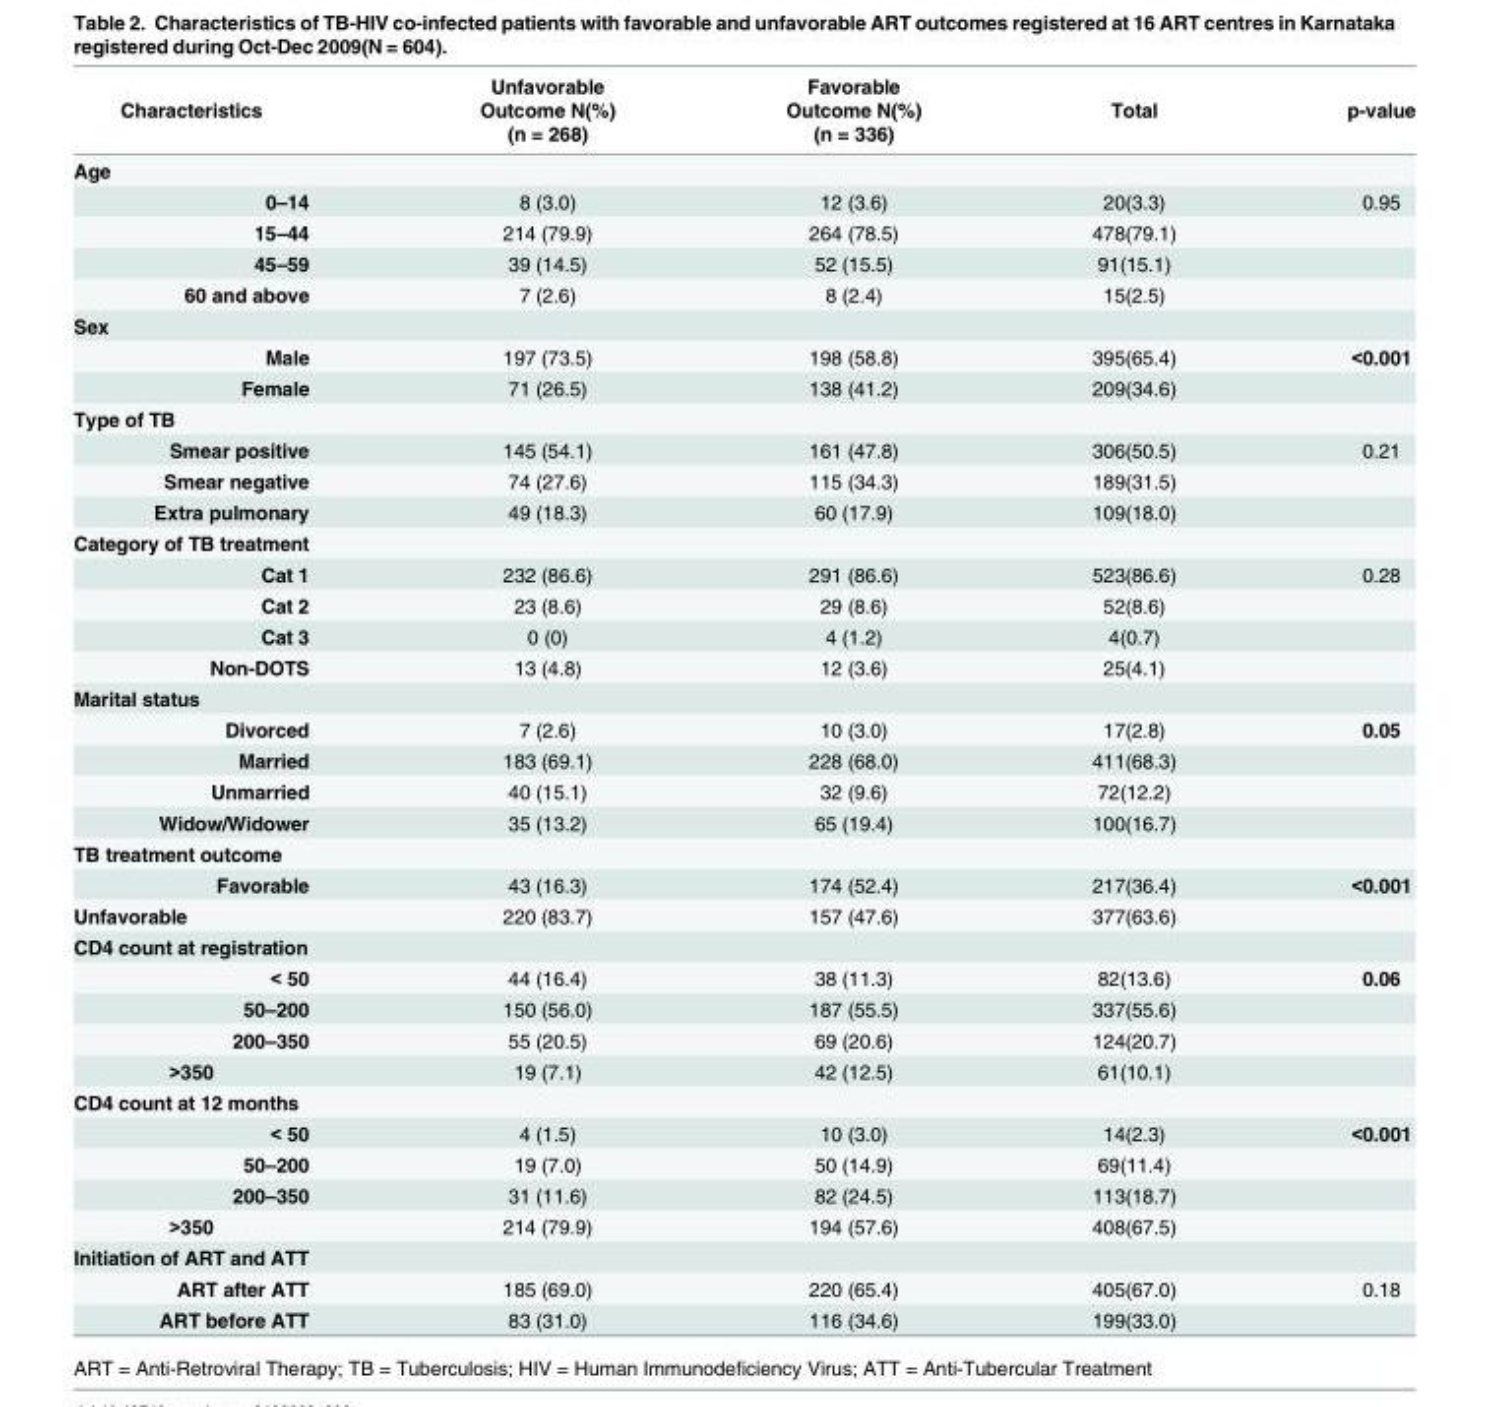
<table><thead><tr><td rowspan="3">Characteristics</td><td rowspan="3">Unfavorable Outcome N(%) (n = 268)</td><td rowspan="3">Favorable Outcome N(%) (n = 336)</td><td rowspan="3">Total</td><td rowspan="3">p-value</td></tr><tr></tr><tr></tr></thead><tbody><tr><td colspan="5">Age</td></tr><tr><td>0–14</td><td>8 (3.0)</td><td>12 (3.6)</td><td>20(3.3)</td><td>0.95</td></tr><tr><td>15–44</td><td>214 (79.9)</td><td>264 (78.5)</td><td>478(79.1)</td><td></td></tr><tr><td>45–59</td><td>39 (14.5)</td><td>52 (15.5)</td><td>91(15.1)</td><td></td></tr><tr><td>60 and above</td><td>7 (2.6)</td><td>8 (2.4)</td><td>15(2.5)</td><td></td></tr><tr><td colspan="5">Sex</td></tr><tr><td>Male</td><td>197 (73.5)</td><td>198 (58.8)</td><td>395(65.4)</td><td>&lt;0.001</td></tr><tr><td>Female</td><td>71 (26.5)</td><td>138 (41.2)</td><td>209(34.6)</td><td></td></tr><tr><td colspan="5">Type of TB</td></tr><tr><td>Smear positive</td><td>145 (54.1)</td><td>161 (47.8)</td><td>306(50.5)</td><td>0.21</td></tr><tr><td>Smear negative</td><td>74 (27.6)</td><td>115 (34.3)</td><td>189(31.5)</td><td></td></tr><tr><td>Extra pulmonary</td><td>49 (18.3)</td><td>60 (17.9)</td><td>109(18.0)</td><td></td></tr><tr><td colspan="5">Category of TB treatment</td></tr><tr><td>Cat 1</td><td>232 (86.6)</td><td>291 (86.6)</td><td>523(86.6)</td><td>0.28</td></tr><tr><td>Cat 2</td><td>23 (8.6)</td><td>29 (8.6)</td><td>52(8.6)</td><td></td></tr><tr><td>Cat 3</td><td>0 (0)</td><td>4 (1.2)</td><td>4(0.7)</td><td></td></tr><tr><td>Non-DOTS</td><td>13 (4.8)</td><td>12 (3.6)</td><td>25(4.1)</td><td></td></tr><tr><td colspan="5">Marital status</td></tr><tr><td>Divorced</td><td>7 (2.6)</td><td>10 (3.0)</td><td>17(2.8)</td><td>0.05</td></tr><tr><td>Married</td><td>183 (69.1)</td><td>228 (68.0)</td><td>411(68.3)</td><td></td></tr><tr><td>Unmarried</td><td>40 (15.1)</td><td>32 (9.6)</td><td>72(12.2)</td><td></td></tr><tr><td>Widow/Widower</td><td>35 (13.2)</td><td>65 (19.4)</td><td>100(16.7)</td><td></td></tr><tr><td colspan="5">TB treatment outcome</td></tr><tr><td>Favorable</td><td>43 (16.3)</td><td>174 (52.4)</td><td>217(36.4)</td><td>&lt;0.001</td></tr><tr><td>Unfavorable</td><td>220 (83.7)</td><td>157 (47.6)</td><td>377(63.6)</td><td></td></tr><tr><td colspan="5">CD4 count at registration</td></tr><tr><td>&lt; 50</td><td>44 (16.4)</td><td>38 (11.3)</td><td>82(13.6)</td><td>0.06</td></tr><tr><td>50–200</td><td>150 (56.0)</td><td>187 (55.5)</td><td>337(55.6)</td><td></td></tr><tr><td>200–350</td><td>55 (20.5)</td><td>69 (20.6)</td><td>124(20.7)</td><td></td></tr><tr><td>&gt;350</td><td>19 (7.1)</td><td>42 (12.5)</td><td>61(10.1)</td><td></td></tr><tr><td colspan="5">CD4 count at 12 months</td></tr><tr><td>&lt; 50</td><td>4 (1.5)</td><td>10 (3.0)</td><td>14(2.3)</td><td>&lt;0.001</td></tr><tr><td>50–200</td><td>19 (7.0)</td><td>50 (14.9)</td><td>69(11.4)</td><td></td></tr><tr><td>200–350</td><td>31 (11.6)</td><td>82 (24.5)</td><td>113(18.7)</td><td></td></tr><tr><td>&gt;350</td><td>214 (79.9)</td><td>194 (57.6)</td><td>408(67.5)</td><td></td></tr><tr><td colspan="5">Initiation of ART and ATT</td></tr><tr><td>ART after ATT</td><td>185 (69.0)</td><td>220 (65.4)</td><td>405(67.0)</td><td>0.18</td></tr><tr><td>ART before ATT</td><td>83 (31.0)</td><td>116 (34.6)</td><td>199(33.0)</td><td></td></tr></tbody></table>